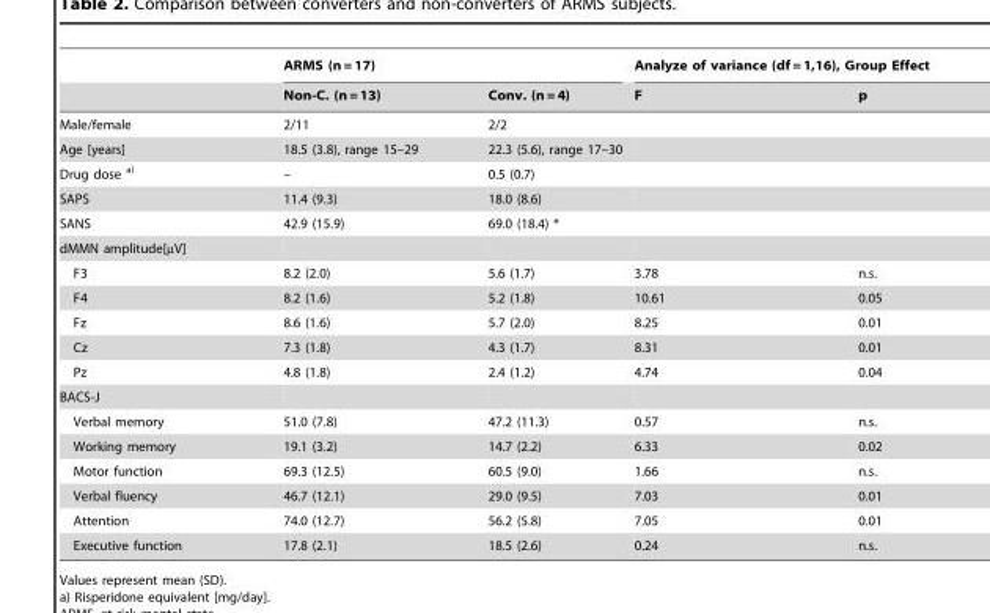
<table><thead><tr><td rowspan="2"></td><td colspan="2">ARMS (n = 17)</td><td colspan="2">Analyze of variance (df = 1,16), Group Effect</td></tr><tr><td>Non-C. (n = 13)</td><td>Conv. (n = 4)</td><td>F</td><td>p</td></tr></thead><tbody><tr><td>Male/female</td><td>2/11</td><td>2/2</td><td></td><td></td></tr><tr><td>Age [years]</td><td>18.5 (3.8), range 15–29</td><td>22.3 (5.6), range 17–30</td><td></td><td></td></tr><tr><td>Drug dose <sup>a)</sup></td><td>–</td><td>0.5 (0.7)</td><td></td><td></td></tr><tr><td>SAPS</td><td>11.4 (9.3)</td><td>18.0 (8.6)</td><td></td><td></td></tr><tr><td>SANS</td><td>42.9 (15.9)</td><td>69.0 (18.4) *</td><td></td><td></td></tr><tr><td colspan="5">dMMN amplitude[µV]</td></tr><tr><td>F3</td><td>8.2 (2.0)</td><td>5.6 (1.7)</td><td>3.78</td><td>n.s.</td></tr><tr><td>F4</td><td>8.2 (1.6)</td><td>5.2 (1.8)</td><td>10.61</td><td>0.05</td></tr><tr><td>Fz</td><td>8.6 (1.6)</td><td>5.7 (2.0)</td><td>8.25</td><td>0.01</td></tr><tr><td>Cz</td><td>7.3 (1.8)</td><td>4.3 (1.7)</td><td>8.31</td><td>0.01</td></tr><tr><td>Pz</td><td>4.8 (1.8)</td><td>2.4 (1.2)</td><td>4.74</td><td>0.04</td></tr><tr><td colspan="5">BACS-J</td></tr><tr><td>Verbal memory</td><td>51.0 (7.8)</td><td>47.2 (11.3)</td><td>0.57</td><td>n.s.</td></tr><tr><td>Working memory</td><td>19.1 (3.2)</td><td>14.7 (2.2)</td><td>6.33</td><td>0.02</td></tr><tr><td>Motor function</td><td>69.3 (12.5)</td><td>60.5 (9.0)</td><td>1.66</td><td>n.s.</td></tr><tr><td>Verbal fluency</td><td>46.7 (12.1)</td><td>29.0 (9.5)</td><td>7.03</td><td>0.01</td></tr><tr><td>Attention</td><td>74.0 (12.7)</td><td>56.2 (5.8)</td><td>7.05</td><td>0.01</td></tr><tr><td>Executive function</td><td>17.8 (2.1)</td><td>18.5 (2.6)</td><td>0.24</td><td>n.s.</td></tr></tbody></table>